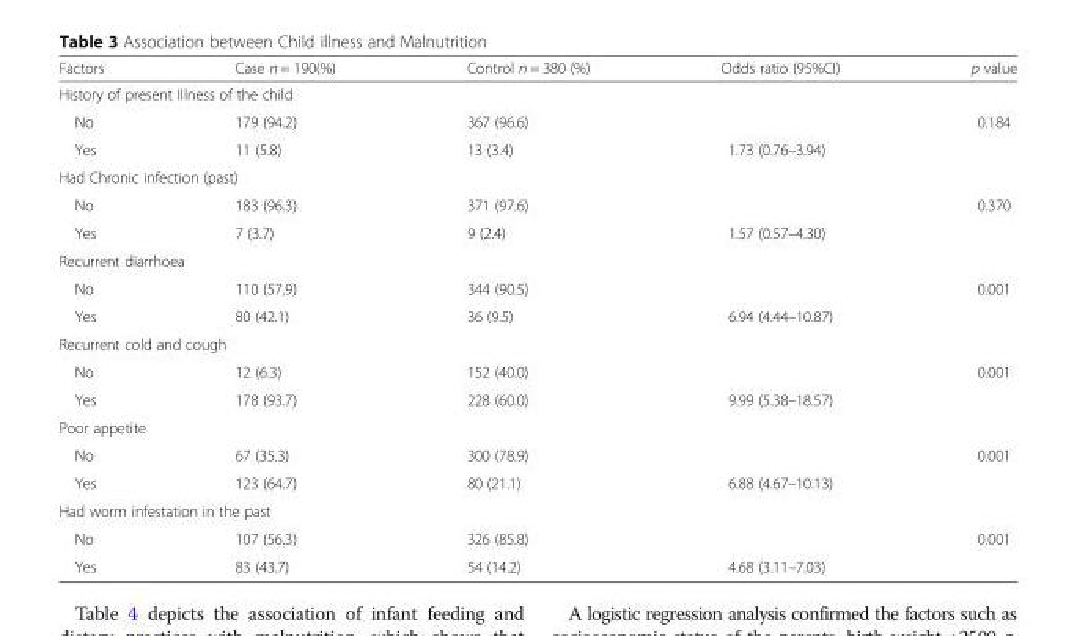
<table><thead><tr><td>Factors</td><td>Case n = 190(%)</td><td>Control n = 380 (%)</td><td>Odds ratio (95%CI)</td><td>p value</td></tr></thead><tbody><tr><td colspan="5">History of present Illness of the child</td></tr><tr><td>No</td><td>179 (94.2)</td><td>367 (96.6)</td><td></td><td>0.184</td></tr><tr><td>Yes</td><td>11 (5.8)</td><td>13 (3.4)</td><td>1.73 (0.76–3.94)</td><td></td></tr><tr><td colspan="5">Had Chronic infection (past)</td></tr><tr><td>No</td><td>183 (96.3)</td><td>371 (97.6)</td><td></td><td>0.370</td></tr><tr><td>Yes</td><td>7 (3.7)</td><td>9 (2.4)</td><td>1.57 (0.57–4.30)</td><td></td></tr><tr><td colspan="5">Recurrent diarrhoea</td></tr><tr><td>No</td><td>110 (57.9)</td><td>344 (90.5)</td><td></td><td>0.001</td></tr><tr><td>Yes</td><td>80 (42.1)</td><td>36 (9.5)</td><td>6.94 (4.44–10.87)</td><td></td></tr><tr><td colspan="5">Recurrent cold and cough</td></tr><tr><td>No</td><td>12 (6.3)</td><td>152 (40.0)</td><td></td><td>0.001</td></tr><tr><td>Yes</td><td>178 (93.7)</td><td>228 (60.0)</td><td>9.99 (5.38–18.57)</td><td></td></tr><tr><td colspan="5">Poor appetite</td></tr><tr><td>No</td><td>67 (35.3)</td><td>300 (78.9)</td><td></td><td>0.001</td></tr><tr><td>Yes</td><td>123 (64.7)</td><td>80 (21.1)</td><td>6.88 (4.67–10.13)</td><td></td></tr><tr><td colspan="5">Had worm infestation in the past</td></tr><tr><td>No</td><td>107 (56.3)</td><td>326 (85.8)</td><td></td><td>0.001</td></tr><tr><td>Yes</td><td>83 (43.7)</td><td>54 (14.2)</td><td>4.68 (3.11–7.03)</td><td></td></tr></tbody></table>